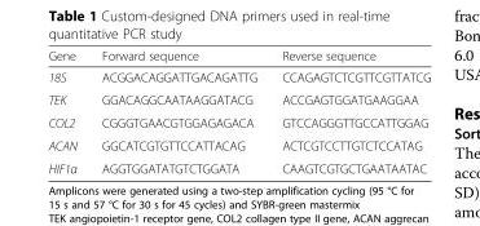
<table><thead><tr><td>Gene</td><td>Forward sequence</td><td>Reverse sequence</td></tr></thead><tbody><tr><td>18S</td><td>ACGGACAGGATTGACAGATTG</td><td>CCAGAGTCTCGTTCGTTATCG</td></tr><tr><td>TEK</td><td>GGACAGGCAATAAGGATACG</td><td>ACCGAGTGGATGAAGGAA</td></tr><tr><td>COL2</td><td>CGGGTGAACGTGGAGAGACA</td><td>GTCCAGGGTTGCCATTGGAG</td></tr><tr><td>ACAN</td><td>GGCATCGTGTTCCATTACAG</td><td>ACTCGTCCTTGTCTCCATAG</td></tr><tr><td>HIF1α</td><td>AGGTGGATATGTCTGGATA</td><td>CAAGTCGTGCTGAATAATAC</td></tr></tbody></table>